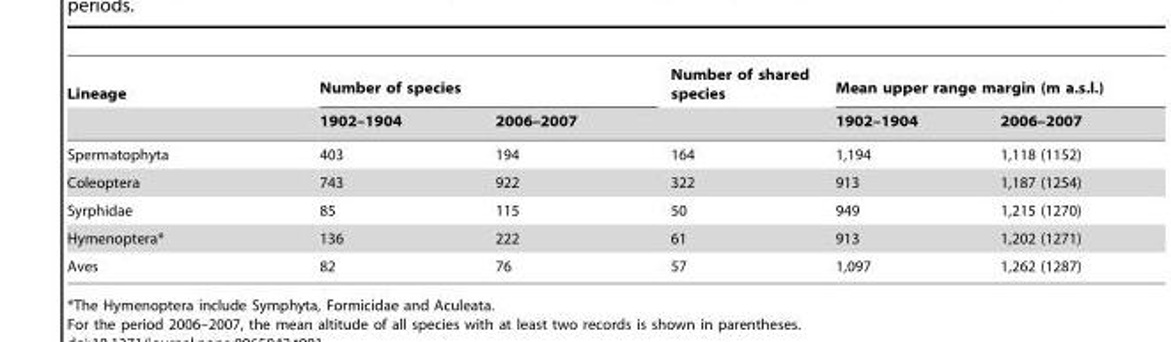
<table><thead><tr><td rowspan="2">Lineage</td><td colspan="2">Number of species</td><td rowspan="2">Number of shared species</td><td colspan="2">Mean upper range margin (m a.s.l.)</td></tr><tr><td>1902–1904</td><td>2006–2007</td><td>1902–1904</td><td>2006–2007</td></tr></thead><tbody><tr><td>Spermatophyta</td><td>403</td><td>194</td><td>164</td><td>1,194</td><td>1,118 (1152)</td></tr><tr><td>Coleoptera</td><td>743</td><td>922</td><td>322</td><td>913</td><td>1,187 (1254)</td></tr><tr><td>Syrphidae</td><td>85</td><td>115</td><td>50</td><td>949</td><td>1,215 (1270)</td></tr><tr><td>Hymenoptera*</td><td>136</td><td>222</td><td>61</td><td>913</td><td>1,202 (1271)</td></tr><tr><td>Aves</td><td>82</td><td>76</td><td>57</td><td>1,097</td><td>1,262 (1287)</td></tr></tbody></table>